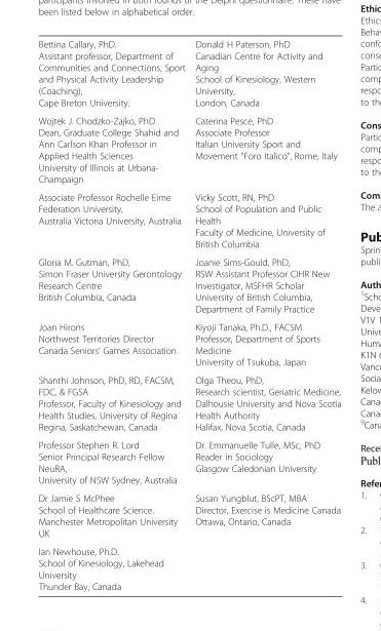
<table><tbody><tr><td>Bettina Callary, PhD. Assistant professor, Department of Communities and Connections, Sport and Physical Activity Leadership (Coaching), Cape Breton University.</td><td>Donald H Paterson, PhD Canadian Centre for Activity and Aging School of Kinesiology, Western University, London, Canada</td></tr><tr><td>Wojtek J. Chodzko-Zajko, PhD Dean, Graduate College Shahid and Ann Carlson Khan Professor in Applied Health Sciences University of Illinois at Urbana- Champaign</td><td>Caterina Pesce, PhD Associate Professor Italian University Sport and Movement “Foro Italico”, Rome, Italy</td></tr><tr><td>Associate Professor Rochelle Eime Federation University, Australia Victoria University, Australia</td><td>Vicky Scott, RN, PhD School of Population and Public Health Faculty of Medicine, University of British Columbia</td></tr><tr><td>Gloria M. Gutman, PhD, Simon Fraser University Gerontology Research Centre British Columbia, Canada</td><td>Joanie Sims-Gould, PhD, RSW Assistant Professor CIHR New Investigator, MSFHR Scholar University of British Columbia, Department of Family Practice</td></tr><tr><td>Joan Hirons Northwest Territories Director Canada Seniors’ Games Association</td><td>Kiyoji Tanaka, Ph.D., FACSM Professor, Department of Sports Medicine University of Tsukuba, Japan</td></tr><tr><td>Shanthi Johnson, PhD, RD, FACSM, FDC, &amp; FGSA Professor, Faculty of Kinesiology and Health Studies, University of Regina Regina, Saskatchewan, Canada</td><td>Olga Theou, PhD, Research scientist, Geriatric Medicine, Dalhousie University and Nova Scotia Health Authority Halifax, Nova Scotia, Canada</td></tr><tr><td>Professor Stephen R. Lord Senior Principal Research Fellow NeuRA, University of NSW Sydney, Australia</td><td>Dr. Emmanuelle Tulle, MSc, PhD Reader in Sociology Glasgow Caledonian University</td></tr><tr><td>Dr Jamie S McPhee School of Healthcare Science. Manchester Metropolitan University UK</td><td>Susan Yungblut, BScPT, MBA Director, Exercise is Medicine Canada Ottawa, Ontario, Canada</td></tr><tr><td>Ian Newhouse, Ph.D. School of Kinesiology, Lakehead University Thunder Bay, Canada</td><td></td></tr></tbody></table>